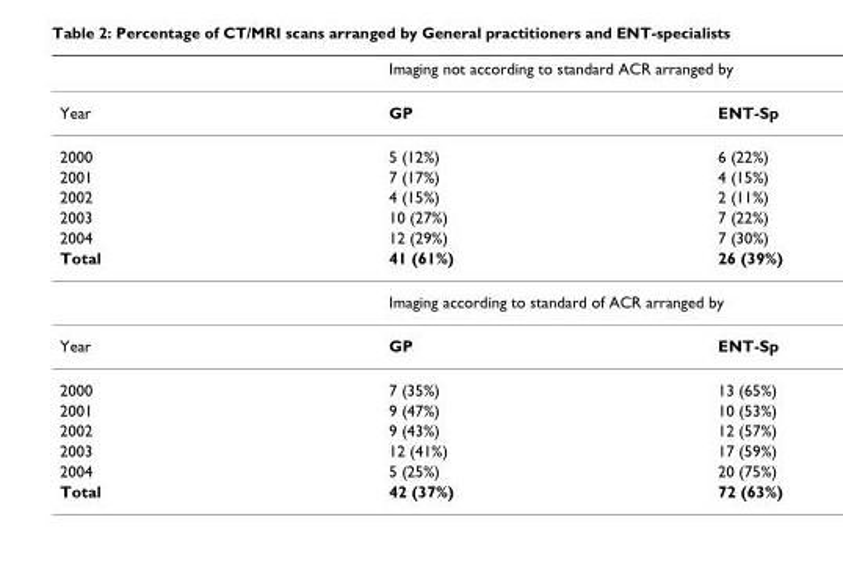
<table><thead><tr><td rowspan="2">Year</td><td colspan="2">Imaging not according to standard ACR arranged by</td></tr><tr><td>GP</td><td>ENT-Sp</td></tr></thead><tbody><tr><td>2000</td><td>5 (12%)</td><td>6 (22%)</td></tr><tr><td>2001</td><td>7 (17%)</td><td>4 (15%)</td></tr><tr><td>2002</td><td>4 (15%)</td><td>2 (11%)</td></tr><tr><td>2003</td><td>10 (27%)</td><td>7 (22%)</td></tr><tr><td>2004</td><td>12 (29%)</td><td>7 (30%)</td></tr><tr><td rowspan="2">Total</td><td>41 (61%)</td><td>26 (39%)</td></tr><tr><td colspan="2">Imaging according to standard of ACR arranged by</td></tr><tr><td>Year</td><td>GP</td><td>ENT-Sp</td></tr><tr><td>2000</td><td>7 (35%)</td><td>13 (65%)</td></tr><tr><td>2001</td><td>9 (47%)</td><td>10 (53%)</td></tr><tr><td>2002</td><td>9 (43%)</td><td>12 (57%)</td></tr><tr><td>2003</td><td>12 (41%)</td><td>17 (59%)</td></tr><tr><td>2004</td><td>5 (25%)</td><td>20 (75%)</td></tr><tr><td>Total</td><td>42 (37%)</td><td>72 (63%)</td></tr></tbody></table>